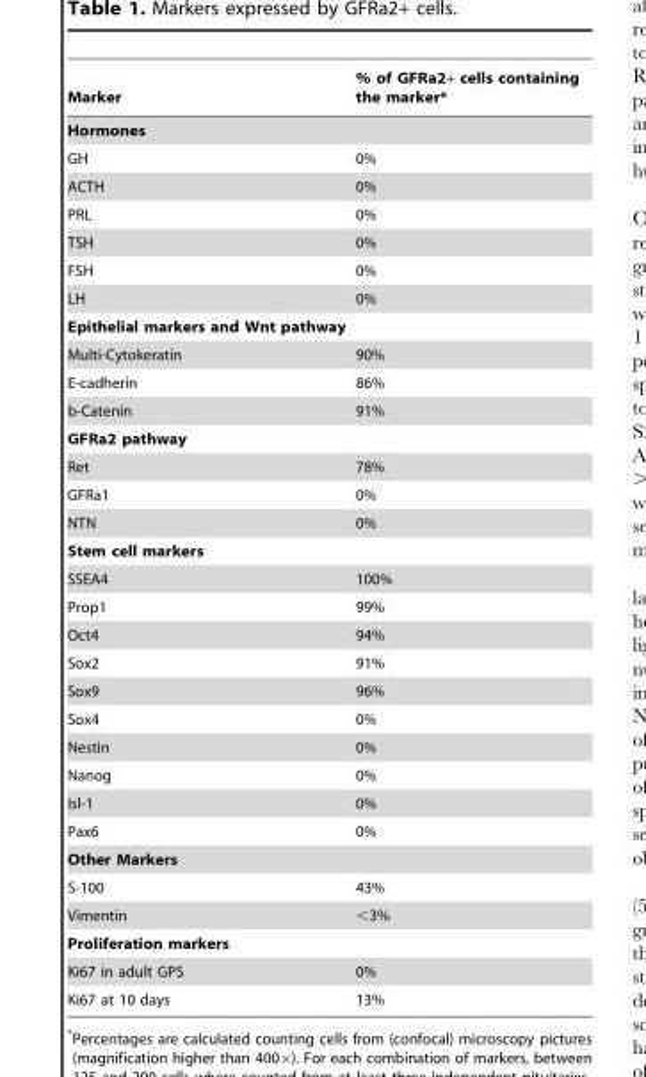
<table><thead><tr><td>Marker</td><td>% of GFRa2+ cells containing the marker*</td></tr></thead><tbody><tr><td colspan="2">Hormones</td></tr><tr><td>GH</td><td>0%</td></tr><tr><td>ACTH</td><td>0%</td></tr><tr><td>PRL</td><td>0%</td></tr><tr><td>TSH</td><td>0%</td></tr><tr><td>FSH</td><td>0%</td></tr><tr><td>LH</td><td>0%</td></tr><tr><td colspan="2">Epithelial markers and Wnt pathway</td></tr><tr><td>Multi-Cytokeratin</td><td>90%</td></tr><tr><td>E-cadherin</td><td>86%</td></tr><tr><td>b-Catenin</td><td>91%</td></tr><tr><td colspan="2">GFRa2 pathway</td></tr><tr><td>Ret</td><td>78%</td></tr><tr><td>GFRa1</td><td>0%</td></tr><tr><td>NTN</td><td>0%</td></tr><tr><td colspan="2">Stem cell markers</td></tr><tr><td>SSEA4</td><td>100%</td></tr><tr><td>Prop1</td><td>99%</td></tr><tr><td>Oct4</td><td>94%</td></tr><tr><td>Sox2</td><td>91%</td></tr><tr><td>Sox9</td><td>96%</td></tr><tr><td>Sox4</td><td>0%</td></tr><tr><td>Nestin</td><td>0%</td></tr><tr><td>Nanog</td><td>0%</td></tr><tr><td>Isl-1</td><td>0%</td></tr><tr><td>Pax6</td><td>0%</td></tr><tr><td colspan="2">Other Markers</td></tr><tr><td>S-100</td><td>43%</td></tr><tr><td>Vimentin</td><td>&lt;3%</td></tr><tr><td colspan="2">Proliferation markers</td></tr><tr><td>Ki67 in adult GPS</td><td>0%</td></tr><tr><td>Ki67 at 10 days</td><td>13%</td></tr></tbody></table>